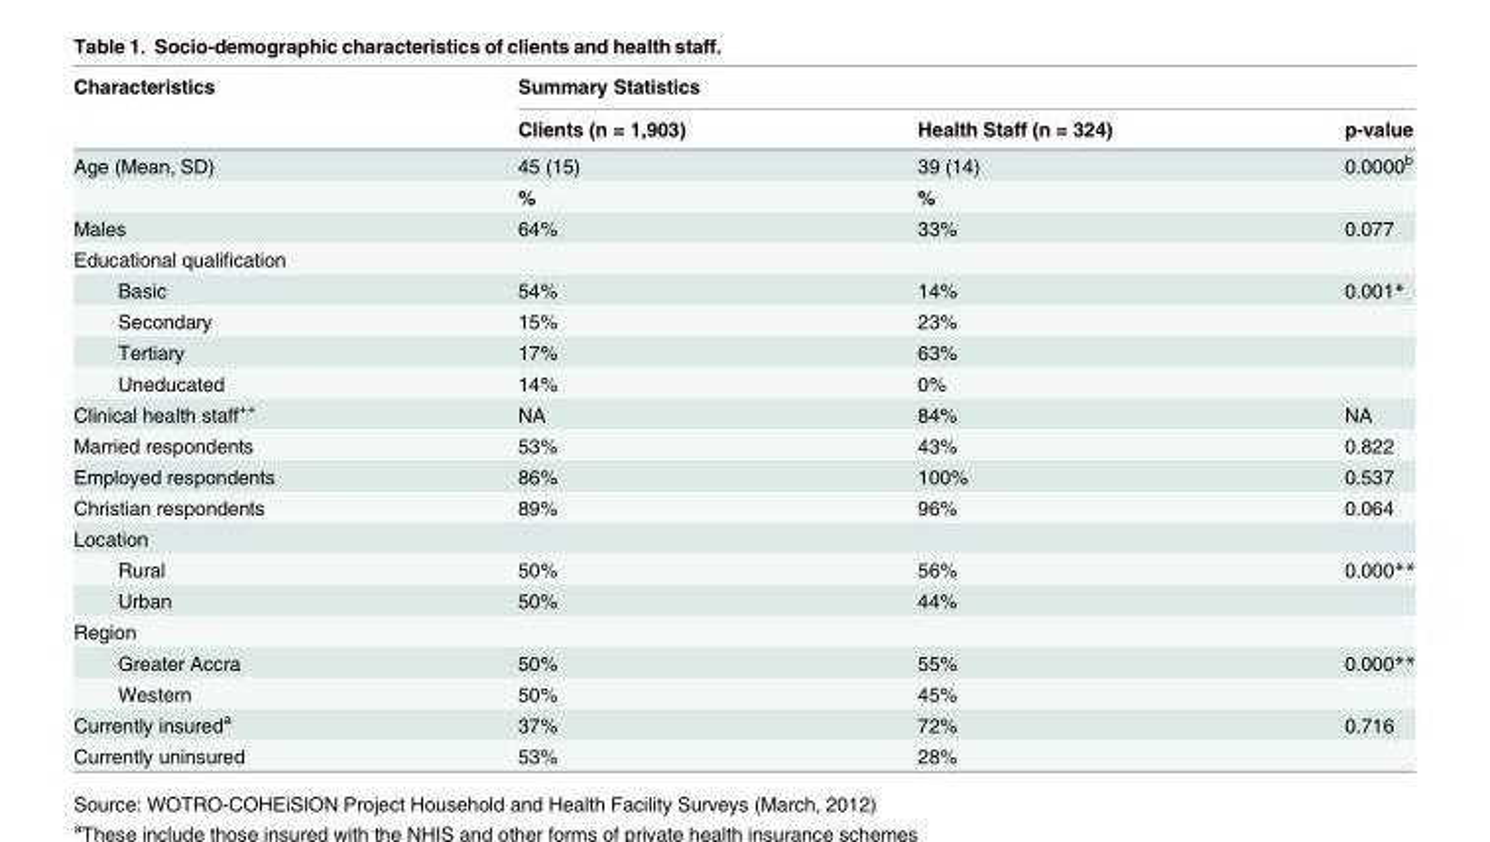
<table><thead><tr><td rowspan="2">Characteristics</td><td colspan="3">Summary Statistics</td></tr><tr><td>Clients (n = 1,903)</td><td>Health Staff (n = 324)</td><td>p-value</td></tr></thead><tbody><tr><td rowspan="2">Age (Mean, SD)</td><td>45 (15)</td><td>39 (14)</td><td>0.0000<sup>b</sup></td></tr><tr><td>%</td><td>%</td><td></td></tr><tr><td>Males</td><td>64%</td><td>33%</td><td>0.077</td></tr><tr><td colspan="4">Educational qualification</td></tr><tr><td>Basic</td><td>54%</td><td>14%</td><td>0.001*</td></tr><tr><td>Secondary</td><td>15%</td><td>23%</td><td></td></tr><tr><td>Tertiary</td><td>17%</td><td>63%</td><td></td></tr><tr><td>Uneducated</td><td>14%</td><td>0%</td><td></td></tr><tr><td>Clinical health staff<sup>++</sup></td><td>NA</td><td>84%</td><td>NA</td></tr><tr><td>Married respondents</td><td>53%</td><td>43%</td><td>0.822</td></tr><tr><td>Employed respondents</td><td>86%</td><td>100%</td><td>0.537</td></tr><tr><td>Christian respondents</td><td>89%</td><td>96%</td><td>0.064</td></tr><tr><td colspan="4">Location</td></tr><tr><td>Rural</td><td>50%</td><td>56%</td><td>0.000**</td></tr><tr><td>Urban</td><td>50%</td><td>44%</td><td></td></tr><tr><td colspan="4">Region</td></tr><tr><td>Greater Accra</td><td>50%</td><td>55%</td><td>0.000**</td></tr><tr><td>Western</td><td>50%</td><td>45%</td><td></td></tr><tr><td>Currently insured<sup>a</sup></td><td>37%</td><td>72%</td><td>0.716</td></tr><tr><td>Currently uninsured</td><td>53%</td><td>28%</td><td></td></tr></tbody></table>